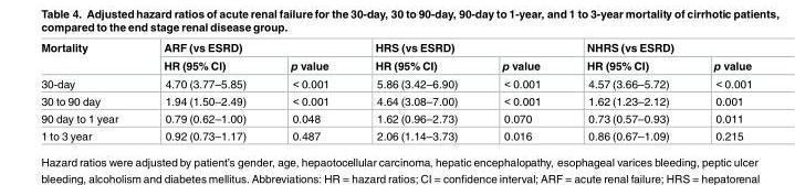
<table><thead><tr><td rowspan="2">Mortality</td><td colspan="2">ARF (vs ESRD)</td><td colspan="2">HRS (vs ESRD)</td><td colspan="2">NHRS (vs ESRD)</td></tr><tr><td>HR (95% CI)</td><td>p value</td><td>HR (95% CI)</td><td>p value</td><td>HR (95% CI)</td><td>p value</td></tr></thead><tbody><tr><td>30-day</td><td>4.70 (3.77–5.85)</td><td>&lt; 0.001</td><td>5.86 (3.42–6.90)</td><td>&lt; 0.001</td><td>4.57 (3.66–5.72)</td><td>&lt; 0.001</td></tr><tr><td>30 to 90 day</td><td>1.94 (1.50–2.49)</td><td>&lt; 0.001</td><td>4.64 (3.08–7.00)</td><td>&lt; 0.001</td><td>1.62 (1.23–2.12)</td><td>0.001</td></tr><tr><td>90 day to 1 year</td><td>0.79 (0.62–1.00)</td><td>0.048</td><td>1.62 (0.96–2.73)</td><td>0.070</td><td>0.73 (0.57–0.93)</td><td>0.011</td></tr><tr><td>1 to 3 year</td><td>0.92 (0.73–1.17)</td><td>0.487</td><td>2.06 (1.14–3.73)</td><td>0.016</td><td>0.86 (0.67–1.09)</td><td>0.215</td></tr></tbody></table>